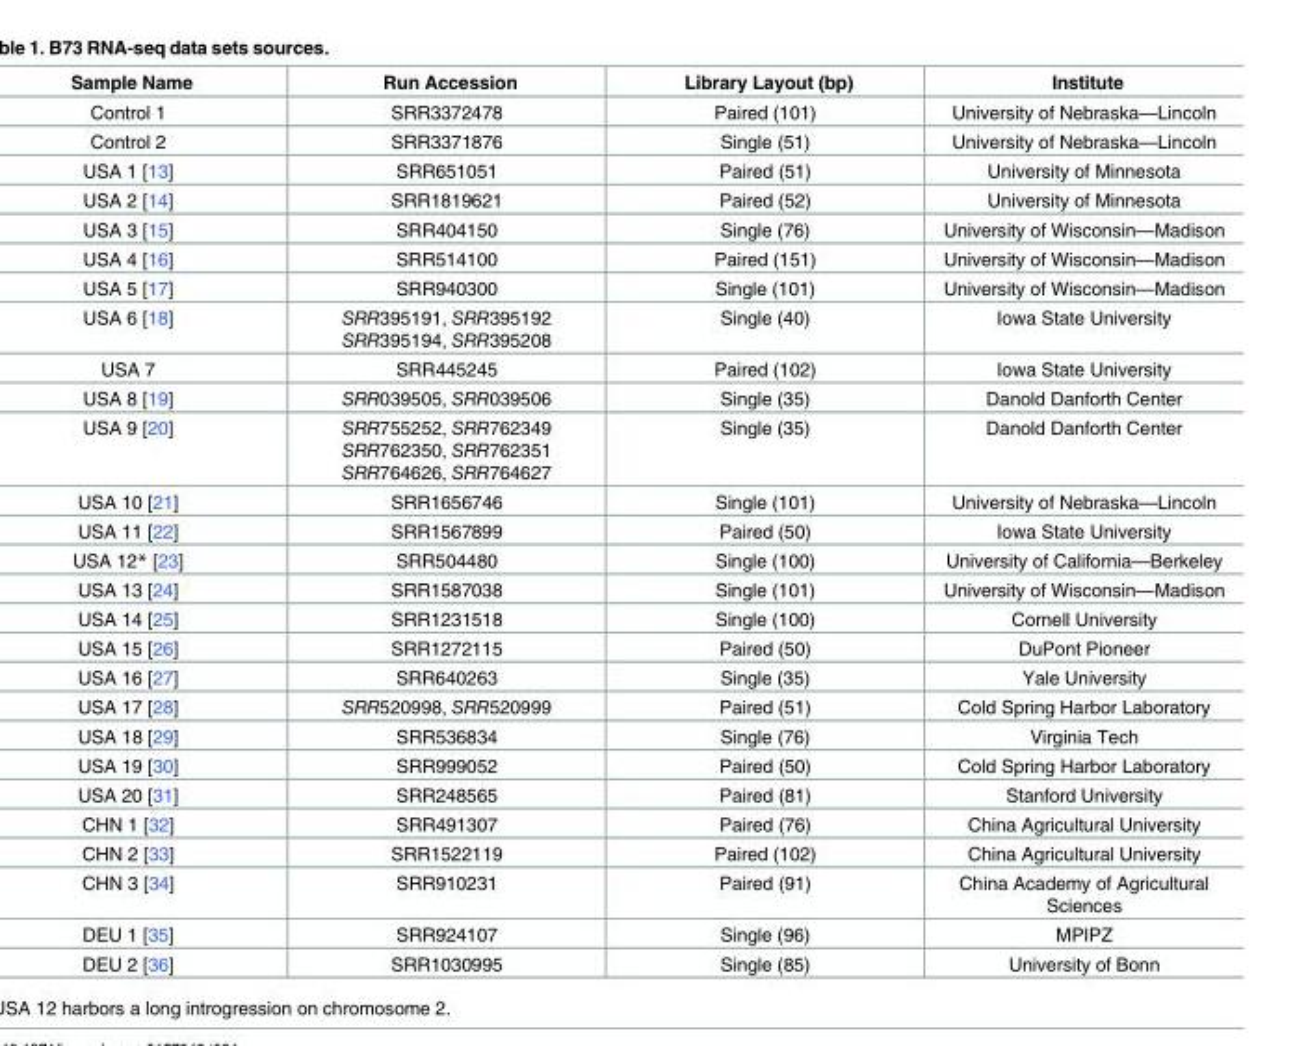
<table><thead><tr><td>Sample Name</td><td>Run Accession</td><td>Library Layout (bp)</td><td>Institute</td></tr></thead><tbody><tr><td>Control 1</td><td>SRR3372478</td><td>Paired (101)</td><td>University of Nebraska—Lincoln</td></tr><tr><td>Control 2</td><td>SRR3371876</td><td>Single (51)</td><td>University of Nebraska—Lincoln</td></tr><tr><td>USA 1 [13]</td><td>SRR651051</td><td>Paired (51)</td><td>University of Minnesota</td></tr><tr><td>USA 2 [14]</td><td>SRR1819621</td><td>Paired (52)</td><td>University of Minnesota</td></tr><tr><td>USA 3 [15]</td><td>SRR404150</td><td>Single (76)</td><td>University of Wisconsin—Madison</td></tr><tr><td>USA 4 [16]</td><td>SRR514100</td><td>Paired (151)</td><td>University of Wisconsin—Madison</td></tr><tr><td>USA 5 [17]</td><td>SRR940300</td><td>Single (101)</td><td>University of Wisconsin—Madison</td></tr><tr><td>USA 6 [18]</td><td>SRR395191, SRR395192 SRR395194, SRR395208</td><td>Single (40)</td><td>Iowa State University</td></tr><tr><td>USA 7</td><td>SRR445245</td><td>Paired (102)</td><td>Iowa State University</td></tr><tr><td>USA 8 [19]</td><td>SRR039505, SRR039506</td><td>Single (35)</td><td>Danold Danforth Center</td></tr><tr><td>USA 9 [20]</td><td>SRR755252, SRR762349 SRR762350, SRR762351 SRR764626, SRR764627</td><td>Single (35)</td><td>Danold Danforth Center</td></tr><tr><td>USA 10 [21]</td><td>SRR1656746</td><td>Single (101)</td><td>University of Nebraska—Lincoln</td></tr><tr><td>USA 11 [22]</td><td>SRR1567899</td><td>Paired (50)</td><td>Iowa State University</td></tr><tr><td>USA 12* [23]</td><td>SRR504480</td><td>Single (100)</td><td>University of California—Berkeley</td></tr><tr><td>USA 13 [24]</td><td>SRR1587038</td><td>Single (101)</td><td>University of Wisconsin—Madison</td></tr><tr><td>USA 14 [25]</td><td>SRR1231518</td><td>Single (100)</td><td>Cornell University</td></tr><tr><td>USA 15 [26]</td><td>SRR1272115</td><td>Paired (50)</td><td>DuPont Pioneer</td></tr><tr><td>USA 16 [27]</td><td>SRR640263</td><td>Single (35)</td><td>Yale University</td></tr><tr><td>USA 17 [28]</td><td>SRR520998, SRR520999</td><td>Paired (51)</td><td>Cold Spring Harbor Laboratory</td></tr><tr><td>USA 18 [29]</td><td>SRR536834</td><td>Single (76)</td><td>Virginia Tech</td></tr><tr><td>USA 19 [30]</td><td>SRR999052</td><td>Paired (50)</td><td>Cold Spring Harbor Laboratory</td></tr><tr><td>USA 20 [31]</td><td>SRR248565</td><td>Paired (81)</td><td>Stanford University</td></tr><tr><td>CHN 1 [32]</td><td>SRR491307</td><td>Paired (76)</td><td>China Agricultural University</td></tr><tr><td>CHN 2 [33]</td><td>SRR1522119</td><td>Paired (102)</td><td>China Agricultural University</td></tr><tr><td>CHN 3 [34]</td><td>SRR910231</td><td>Paired (91)</td><td>China Academy of Agricultural Sciences</td></tr><tr><td>DEU 1 [35]</td><td>SRR924107</td><td>Single (96)</td><td>MPIPZ</td></tr><tr><td>DEU 2 [36]</td><td>SRR1030995</td><td>Single (85)</td><td>University of Bonn</td></tr></tbody></table>